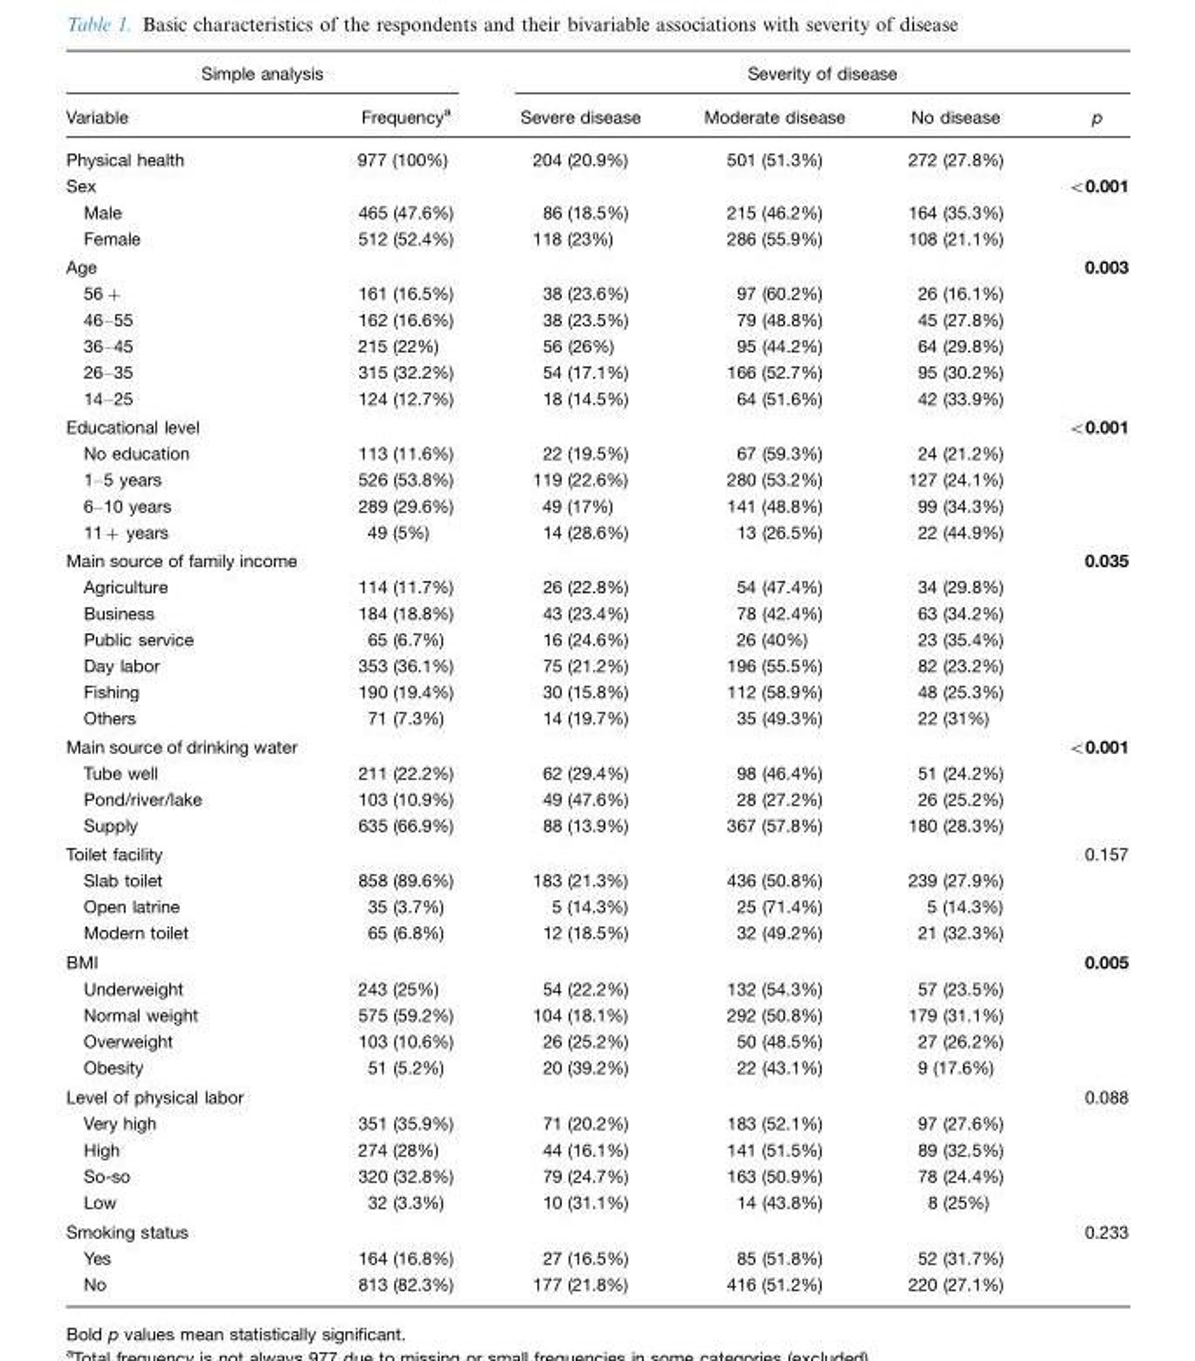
<table><thead><tr><td colspan="2">Simple analysis</td><td colspan="4">Severity of disease</td></tr><tr><td>Variable</td><td>Frequency<sup>a</sup></td><td>Severe disease</td><td>Moderate disease</td><td>No disease</td><td>p</td></tr></thead><tbody><tr><td>Physical health</td><td>977 (100%)</td><td>204 (20.9%)</td><td>501 (51.3%)</td><td>272 (27.8%)</td><td></td></tr><tr><td>Sex</td><td></td><td></td><td></td><td></td><td>&lt;0.001</td></tr><tr><td>Male</td><td>465 (47.6%)</td><td>86 (18.5%)</td><td>215 (46.2%)</td><td>164 (35.3%)</td><td></td></tr><tr><td>Female</td><td>512 (52.4%)</td><td>118 (23%)</td><td>286 (55.9%)</td><td>108 (21.1%)</td><td></td></tr><tr><td>Age</td><td></td><td></td><td></td><td></td><td>0.003</td></tr><tr><td>56+</td><td>161 (16.5%)</td><td>38 (23.6%)</td><td>97 (60.2%)</td><td>26 (16.1%)</td><td></td></tr><tr><td>46–55</td><td>162 (16.6%)</td><td>38 (23.5%)</td><td>79 (48.8%)</td><td>45 (27.8%)</td><td></td></tr><tr><td>36–45</td><td>215 (22%)</td><td>56 (26%)</td><td>95 (44.2%)</td><td>64 (29.8%)</td><td></td></tr><tr><td>26–35</td><td>315 (32.2%)</td><td>54 (17.1%)</td><td>166 (52.7%)</td><td>95 (30.2%)</td><td></td></tr><tr><td>14–25</td><td>124 (12.7%)</td><td>18 (14.5%)</td><td>64 (51.6%)</td><td>42 (33.9%)</td><td></td></tr><tr><td>Educational level</td><td></td><td></td><td></td><td></td><td>&lt;0.001</td></tr><tr><td>No education</td><td>113 (11.6%)</td><td>22 (19.5%)</td><td>67 (59.3%)</td><td>24 (21.2%)</td><td></td></tr><tr><td>1–5 years</td><td>526 (53.8%)</td><td>119 (22.6%)</td><td>280 (53.2%)</td><td>127 (24.1%)</td><td></td></tr><tr><td>6–10 years</td><td>289 (29.6%)</td><td>49 (17%)</td><td>141 (48.8%)</td><td>99 (34.3%)</td><td></td></tr><tr><td>11+ years</td><td>49 (5%)</td><td>14 (28.6%)</td><td>13 (26.5%)</td><td>22 (44.9%)</td><td></td></tr><tr><td>Main source of family income</td><td></td><td></td><td></td><td></td><td>0.035</td></tr><tr><td>Agriculture</td><td>114 (11.7%)</td><td>26 (22.8%)</td><td>54 (47.4%)</td><td>34 (29.8%)</td><td></td></tr><tr><td>Business</td><td>184 (18.8%)</td><td>43 (23.4%)</td><td>78 (42.4%)</td><td>63 (34.2%)</td><td></td></tr><tr><td>Public service</td><td>65 (6.7%)</td><td>16 (24.6%)</td><td>26 (40%)</td><td>23 (35.4%)</td><td></td></tr><tr><td>Day labor</td><td>353 (36.1%)</td><td>75 (21.2%)</td><td>196 (55.5%)</td><td>82 (23.2%)</td><td></td></tr><tr><td>Fishing</td><td>190 (19.4%)</td><td>30 (15.8%)</td><td>112 (58.9%)</td><td>48 (25.3%)</td><td></td></tr><tr><td>Others</td><td>71 (7.3%)</td><td>14 (19.7%)</td><td>35 (49.3%)</td><td>22 (31%)</td><td></td></tr><tr><td>Main source of drinking water</td><td></td><td></td><td></td><td></td><td>&lt;0.001</td></tr><tr><td>Tube well</td><td>211 (22.2%)</td><td>62 (29.4%)</td><td>98 (46.4%)</td><td>51 (24.2%)</td><td></td></tr><tr><td>Pond/river/lake</td><td>103 (10.9%)</td><td>49 (47.6%)</td><td>28 (27.2%)</td><td>26 (25.2%)</td><td></td></tr><tr><td>Supply</td><td>635 (66.9%)</td><td>88 (13.9%)</td><td>367 (57.8%)</td><td>180 (28.3%)</td><td></td></tr><tr><td>Toilet facility</td><td></td><td></td><td></td><td></td><td>0.157</td></tr><tr><td>Slab toilet</td><td>858 (89.6%)</td><td>183 (21.3%)</td><td>436 (50.8%)</td><td>239 (27.9%)</td><td></td></tr><tr><td>Open latrine</td><td>35 (3.7%)</td><td>5 (14.3%)</td><td>25 (71.4%)</td><td>5 (14.3%)</td><td></td></tr><tr><td>Modern toilet</td><td>65 (6.8%)</td><td>12 (18.5%)</td><td>32 (49.2%)</td><td>21 (32.3%)</td><td></td></tr><tr><td>BMI</td><td></td><td></td><td></td><td></td><td>0.005</td></tr><tr><td>Underweight</td><td>243 (25%)</td><td>54 (22.2%)</td><td>132 (54.3%)</td><td>57 (23.5%)</td><td></td></tr><tr><td>Normal weight</td><td>575 (59.2%)</td><td>104 (18.1%)</td><td>292 (50.8%)</td><td>179 (31.1%)</td><td></td></tr><tr><td>Overweight</td><td>103 (10.6%)</td><td>26 (25.2%)</td><td>50 (48.5%)</td><td>27 (26.2%)</td><td></td></tr><tr><td>Obesity</td><td>51 (5.2%)</td><td>20 (39.2%)</td><td>22 (43.1%)</td><td>9 (17.6%)</td><td></td></tr><tr><td>Level of physical labor</td><td></td><td></td><td></td><td></td><td>0.088</td></tr><tr><td>Very high</td><td>351 (35.9%)</td><td>71 (20.2%)</td><td>183 (52.1%)</td><td>97 (27.6%)</td><td></td></tr><tr><td>High</td><td>274 (28%)</td><td>44 (16.1%)</td><td>141 (51.5%)</td><td>89 (32.5%)</td><td></td></tr><tr><td>So-so</td><td>320 (32.8%)</td><td>79 (24.7%)</td><td>163 (50.9%)</td><td>78 (24.4%)</td><td></td></tr><tr><td>Low</td><td>32 (3.3%)</td><td>10 (31.1%)</td><td>14 (43.8%)</td><td>8 (25%)</td><td></td></tr><tr><td>Smoking status</td><td></td><td></td><td></td><td></td><td>0.233</td></tr><tr><td>Yes</td><td>164 (16.8%)</td><td>27 (16.5%)</td><td>85 (51.8%)</td><td>52 (31.7%)</td><td></td></tr><tr><td>No</td><td>813 (82.3%)</td><td>177 (21.8%)</td><td>416 (51.2%)</td><td>220 (27.1%)</td><td></td></tr></tbody></table>